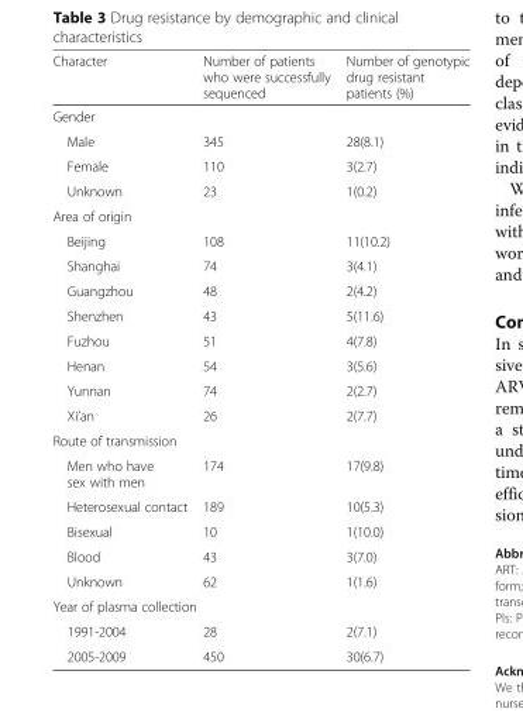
<table><thead><tr><td>Character</td><td>Number of patients who were successfully sequenced</td><td>Number of genotypic drug resistant patients (%)</td></tr></thead><tbody><tr><td colspan="3">Gender</td></tr><tr><td>Male</td><td>345</td><td>28(8.1)</td></tr><tr><td>Female</td><td>110</td><td>3(2.7)</td></tr><tr><td>Unknown</td><td>23</td><td>1(0.2)</td></tr><tr><td colspan="3">Area of origin</td></tr><tr><td>Beijing</td><td>108</td><td>11(10.2)</td></tr><tr><td>Shanghai</td><td>74</td><td>3(4.1)</td></tr><tr><td>Guangzhou</td><td>48</td><td>2(4.2)</td></tr><tr><td>Shenzhen</td><td>43</td><td>5(11.6)</td></tr><tr><td>Fuzhou</td><td>51</td><td>4(7.8)</td></tr><tr><td>Henan</td><td>54</td><td>3(5.6)</td></tr><tr><td>Yunnan</td><td>74</td><td>2(2.7)</td></tr><tr><td>Xi’an</td><td>26</td><td>2(7.7)</td></tr><tr><td colspan="3">Route of transmission</td></tr><tr><td>Men who have sex with men</td><td>174</td><td>17(9.8)</td></tr><tr><td>Heterosexual contact</td><td>189</td><td>10(5.3)</td></tr><tr><td>Bisexual</td><td>10</td><td>1(10.0)</td></tr><tr><td>Blood</td><td>43</td><td>3(7.0)</td></tr><tr><td>Unknown</td><td>62</td><td>1(1.6)</td></tr><tr><td colspan="3">Year of plasma collection</td></tr><tr><td>1991-2004</td><td>28</td><td>2(7.1)</td></tr><tr><td>2005-2009</td><td>450</td><td>30(6.7)</td></tr></tbody></table>